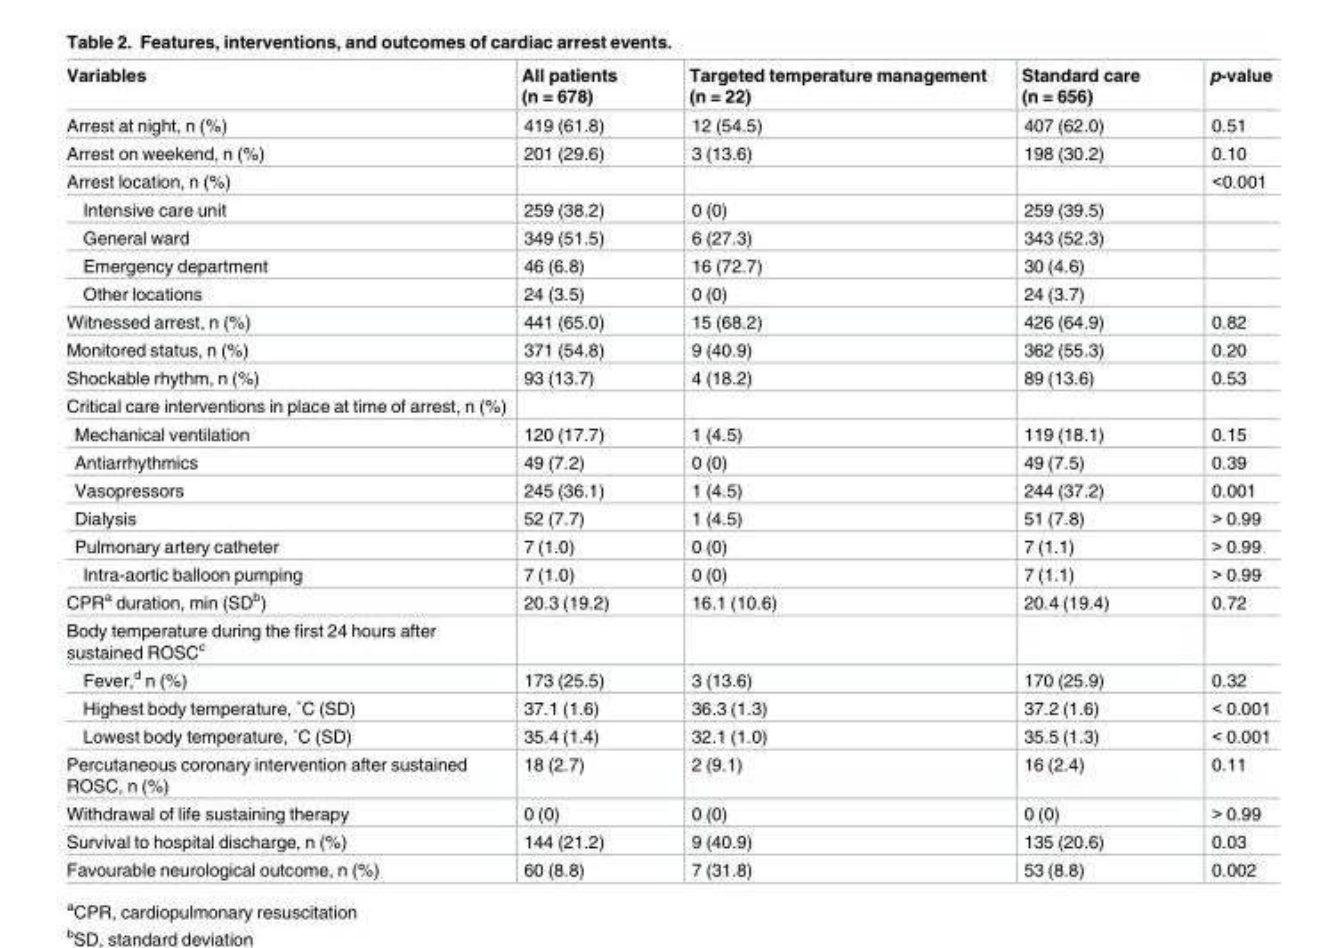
<table><thead><tr><td>Variables</td><td>All patients (n = 678)</td><td>Targeted temperature management (n = 22)</td><td>Standard care (n = 656)</td><td>p-value</td></tr></thead><tbody><tr><td>Arrest at night, n (%)</td><td>419 (61.8)</td><td>12 (54.5)</td><td>407 (62.0)</td><td>0.51</td></tr><tr><td>Arrest on weekend, n (%)</td><td>201 (29.6)</td><td>3 (13.6)</td><td>198 (30.2)</td><td>0.10</td></tr><tr><td>Arrest location, n (%)</td><td></td><td></td><td></td><td>&lt;0.001</td></tr><tr><td>Intensive care unit</td><td>259 (38.2)</td><td>0 (0)</td><td>259 (39.5)</td><td></td></tr><tr><td>General ward</td><td>349 (51.5)</td><td>6 (27.3)</td><td>343 (52.3)</td><td></td></tr><tr><td>Emergency department</td><td>46 (6.8)</td><td>16 (72.7)</td><td>30 (4.6)</td><td></td></tr><tr><td>Other locations</td><td>24 (3.5)</td><td>0 (0)</td><td>24 (3.7)</td><td></td></tr><tr><td>Witnessed arrest, n (%)</td><td>441 (65.0)</td><td>15 (68.2)</td><td>426 (64.9)</td><td>0.82</td></tr><tr><td>Monitored status, n (%)</td><td>371 (54.8)</td><td>9 (40.9)</td><td>362 (55.3)</td><td>0.20</td></tr><tr><td>Shockable rhythm, n (%)</td><td>93 (13.7)</td><td>4 (18.2)</td><td>89 (13.6)</td><td>0.53</td></tr><tr><td colspan="5">Critical care interventions in place at time of arrest, n (%)</td></tr><tr><td>Mechanical ventilation</td><td>120 (17.7)</td><td>1 (4.5)</td><td>119 (18.1)</td><td>0.15</td></tr><tr><td>Antiarrhythmics</td><td>49 (7.2)</td><td>0 (0)</td><td>49 (7.5)</td><td>0.39</td></tr><tr><td>Vasopressors</td><td>245 (36.1)</td><td>1 (4.5)</td><td>244 (37.2)</td><td>0.001</td></tr><tr><td>Dialysis</td><td>52 (7.7)</td><td>1 (4.5)</td><td>51 (7.8)</td><td>&gt; 0.99</td></tr><tr><td>Pulmonary artery catheter</td><td>7 (1.0)</td><td>0 (0)</td><td>7 (1.1)</td><td>&gt; 0.99</td></tr><tr><td>Intra-aortic balloon pumping</td><td>7 (1.0)</td><td>0 (0)</td><td>7 (1.1)</td><td>&gt; 0.99</td></tr><tr><td>CPR<sup>a</sup> duration, min (SD<sup>b</sup>)</td><td>20.3 (19.2)</td><td>16.1 (10.6)</td><td>20.4 (19.4)</td><td>0.72</td></tr><tr><td colspan="5">Body temperature during the first 24 hours after sustained ROSC<sup>c</sup></td></tr><tr><td>Fever,<sup>d</sup> n (%)</td><td>173 (25.5)</td><td>3 (13.6)</td><td>170 (25.9)</td><td>0.32</td></tr><tr><td>Highest body temperature, ˚C (SD)</td><td>37.1 (1.6)</td><td>36.3 (1.3)</td><td>37.2 (1.6)</td><td>&lt; 0.001</td></tr><tr><td>Lowest body temperature, ˚C (SD)</td><td>35.4 (1.4)</td><td>32.1 (1.0)</td><td>35.5 (1.3)</td><td>&lt; 0.001</td></tr><tr><td>Percutaneous coronary intervention after sustained ROSC, n (%)</td><td>18 (2.7)</td><td>2 (9.1)</td><td>16 (2.4)</td><td>0.11</td></tr><tr><td>Withdrawal of life sustaining therapy</td><td>0 (0)</td><td>0 (0)</td><td>0 (0)</td><td>&gt; 0.99</td></tr><tr><td>Survival to hospital discharge, n (%)</td><td>144 (21.2)</td><td>9 (40.9)</td><td>135 (20.6)</td><td>0.03</td></tr><tr><td>Favourable neurological outcome, n (%)</td><td>60 (8.8)</td><td>7 (31.8)</td><td>53 (8.8)</td><td>0.002</td></tr></tbody></table>